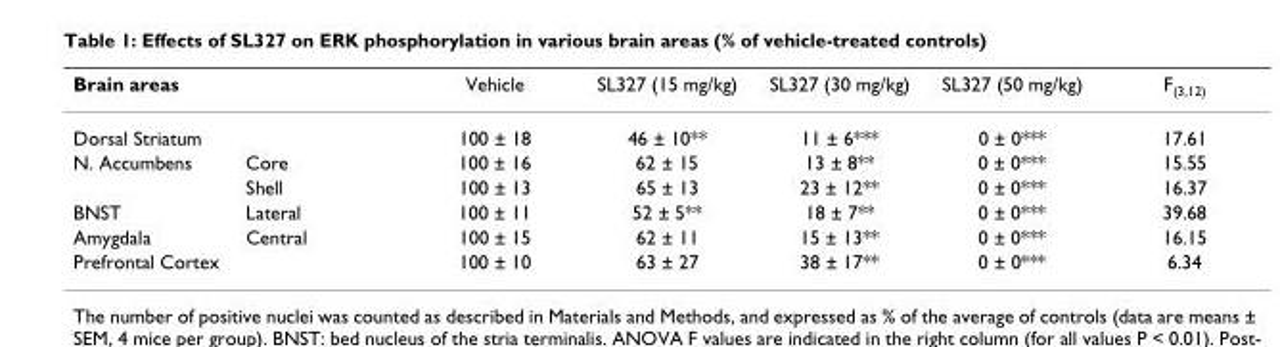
<table><thead><tr><td>Brain areas</td><td></td><td>Vehicle</td><td>SL327 (15 mg/kg)</td><td>SL327 (30 mg/kg)</td><td>SL327 (50 mg/kg)</td><td>F(3,12)</td></tr></thead><tbody><tr><td>Dorsal Striatum</td><td></td><td>100 ± 18</td><td>46 ± 10**</td><td>11 ± 6***</td><td>0 ± 0***</td><td>17.61</td></tr><tr><td rowspan="2">N. Accumbens</td><td>Core</td><td>100 ± 16</td><td>62 ± 15</td><td>13 ± 8**</td><td>0 ± 0***</td><td>15.55</td></tr><tr><td>Shell</td><td>100 ± 13</td><td>65 ± 13</td><td>23 ± 12**</td><td>0 ± 0***</td><td>16.37</td></tr><tr><td>BNST</td><td>Lateral</td><td>100 ± 11</td><td>52 ± 5**</td><td>18 ± 7**</td><td>0 ± 0***</td><td>39.68</td></tr><tr><td>Amygdala</td><td>Central</td><td>100 ± 15</td><td>62 ± 11</td><td>15 ± 13**</td><td>0 ± 0***</td><td>16.15</td></tr><tr><td>Prefrontal Cortex</td><td></td><td>100 ± 10</td><td>63 ± 27</td><td>38 ± 17**</td><td>0 ± 0***</td><td>6.34</td></tr></tbody></table>